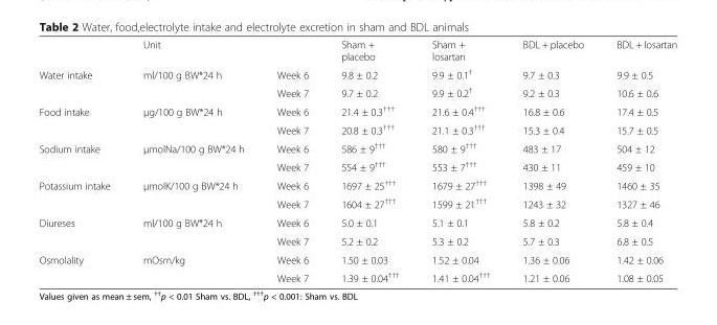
<table><thead><tr><td></td><td>Unit</td><td></td><td>Sham + placebo</td><td>Sham + losartan</td><td>BDL + placebo</td><td>BDL + losartan</td></tr></thead><tbody><tr><td rowspan="2">Water intake</td><td rowspan="2">ml/100 g BW*24 h</td><td>Week 6</td><td>9.8 ± 0.2</td><td>9.9 ± 0.1<sup>†</sup></td><td>9.7 ± 0.3</td><td>9.9 ± 0.5</td></tr><tr><td>Week 7</td><td>9.7 ± 0.2</td><td>9.9 ± 0.2<sup>†</sup></td><td>9.2 ± 0.3</td><td>10.6 ± 0.6</td></tr><tr><td rowspan="2">Food intake</td><td rowspan="2">μg/100 g BW*24 h</td><td>Week 6</td><td>21.4 ± 0.3<sup>†††</sup></td><td>21.6 ± 0.4<sup>†††</sup></td><td>16.8 ± 0.6</td><td>17.4 ± 0.5</td></tr><tr><td>Week 7</td><td>20.8 ± 0.3<sup>†††</sup></td><td>21.1 ± 0.3<sup>†††</sup></td><td>15.3 ± 0.4</td><td>15.7 ± 0.5</td></tr><tr><td rowspan="2">Sodium intake</td><td rowspan="2">μmolNa/100 g BW*24 h</td><td>Week 6</td><td>586 ± 9<sup>†††</sup></td><td>580 ± 9<sup>†††</sup></td><td>483 ± 17</td><td>504 ± 12</td></tr><tr><td>Week 7</td><td>554 ± 9<sup>†††</sup></td><td>553 ± 7<sup>†††</sup></td><td>430 ± 11</td><td>459 ± 10</td></tr><tr><td rowspan="2">Potassium intake</td><td rowspan="2">μmolK/100 g BW*24 h</td><td>Week 6</td><td>1697 ± 25<sup>†††</sup></td><td>1679 ± 27<sup>†††</sup></td><td>1398 ± 49</td><td>1460 ± 35</td></tr><tr><td>Week 7</td><td>1604 ± 27<sup>†††</sup></td><td>1599 ± 21<sup>†††</sup></td><td>1243 ± 32</td><td>1327 ± 46</td></tr><tr><td rowspan="2">Diureses</td><td rowspan="2">ml/100 g BW*24 h</td><td>Week 6</td><td>5.0 ± 0.1</td><td>5.1 ± 0.1</td><td>5.8 ± 0.2</td><td>5.8 ± 0.4</td></tr><tr><td>Week 7</td><td>5.2 ± 0.2</td><td>5.3 ± 0.2</td><td>5.7 ± 0.3</td><td>6.8 ± 0.5</td></tr><tr><td rowspan="2">Osmolality</td><td rowspan="2">mOsm/kg</td><td>Week 6</td><td>1.50 ± 0.03</td><td>1.52 ± 0.04</td><td>1.36 ± 0.06</td><td>1.42 ± 0.06</td></tr><tr><td>Week 7</td><td>1.39 ± 0.04<sup>†††</sup></td><td>1.41 ± 0.04<sup>†††</sup></td><td>1.21 ± 0.06</td><td>1.08 ± 0.05</td></tr></tbody></table>